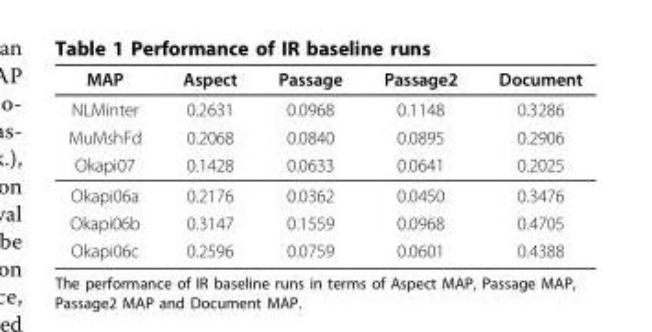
<table><thead><tr><td>MAP</td><td>Aspect</td><td>Passage</td><td>Passage2</td><td>Document</td></tr></thead><tbody><tr><td>NLMinter</td><td>0.2631</td><td>0.0968</td><td>0.1148</td><td>0.3286</td></tr><tr><td>MuMshFd</td><td>0.2068</td><td>0.0840</td><td>0.0895</td><td>0.2906</td></tr><tr><td>Okapi07</td><td>0.1428</td><td>0.0633</td><td>0.0641</td><td>0.2025</td></tr><tr><td>Okapi06a</td><td>0.2176</td><td>0.0362</td><td>0.0450</td><td>0.3476</td></tr><tr><td>Okapi06b</td><td>0.3147</td><td>0.1559</td><td>0.0968</td><td>0.4705</td></tr><tr><td>Okapi06c</td><td>0.2596</td><td>0.0759</td><td>0.0601</td><td>0.4388</td></tr></tbody></table>